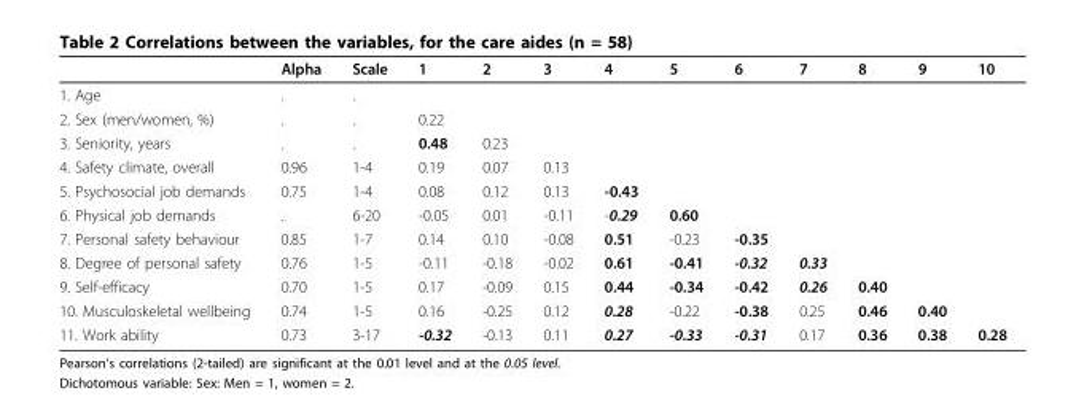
<table><thead><tr><td></td><td>Alpha</td><td>Scale</td><td>1</td><td>2</td><td>3</td><td>4</td><td>5</td><td>6</td><td>7</td><td>8</td><td>9</td><td>10</td></tr></thead><tbody><tr><td>1. Age</td><td>.</td><td>.</td><td></td><td></td><td></td><td></td><td></td><td></td><td></td><td></td><td></td><td></td></tr><tr><td>2. Sex (men/women, %)</td><td>.</td><td>.</td><td>0.22</td><td></td><td></td><td></td><td></td><td></td><td></td><td></td><td></td><td></td></tr><tr><td>3. Seniority, years</td><td>.</td><td>.</td><td>0.48</td><td>0.23</td><td></td><td></td><td></td><td></td><td></td><td></td><td></td><td></td></tr><tr><td>4. Safety climate, overall</td><td>0.96</td><td>1-4</td><td>0.19</td><td>0.07</td><td>0.13</td><td></td><td></td><td></td><td></td><td></td><td></td><td></td></tr><tr><td>5. Psychosocial job demands</td><td>0.75</td><td>1-4</td><td>0.08</td><td>0.12</td><td>0.13</td><td>-0.43</td><td></td><td></td><td></td><td></td><td></td><td></td></tr><tr><td>6. Physical job demands</td><td>.</td><td>6-20</td><td>-0.05</td><td>0.01</td><td>-0.11</td><td>-0.29</td><td>0.60</td><td></td><td></td><td></td><td></td><td></td></tr><tr><td>7. Personal safety behaviour</td><td>0.85</td><td>1-7</td><td>0.14</td><td>0.10</td><td>-0.08</td><td>0.51</td><td>-0.23</td><td>-0.35</td><td></td><td></td><td></td><td></td></tr><tr><td>8. Degree of personal safety</td><td>0.76</td><td>1-5</td><td>-0.11</td><td>-0.18</td><td>-0.02</td><td>0.61</td><td>-0.41</td><td>-0.32</td><td>0.33</td><td></td><td></td><td></td></tr><tr><td>9. Self-efficacy</td><td>0.70</td><td>1-5</td><td>0.17</td><td>-0.09</td><td>0.15</td><td>0.44</td><td>-0.34</td><td>-0.42</td><td>0.26</td><td>0.40</td><td></td><td></td></tr><tr><td>10. Musculoskeletal wellbeing</td><td>0.74</td><td>1-5</td><td>0.16</td><td>-0.25</td><td>0.12</td><td>0.28</td><td>-0.22</td><td>-0.38</td><td>0.25</td><td>0.46</td><td>0.40</td><td></td></tr><tr><td>11. Work ability</td><td>0.73</td><td>3-17</td><td>-0.32</td><td>-0.13</td><td>0.11</td><td>0.27</td><td>-0.33</td><td>-0.31</td><td>0.17</td><td>0.36</td><td>0.38</td><td>0.28</td></tr></tbody></table>